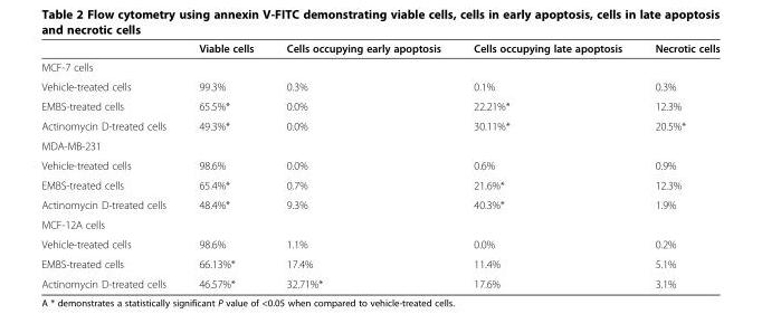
<table><thead><tr><td></td><td>Viable cells</td><td>Cells occupying early apoptosis</td><td>Cells occupying late apoptosis</td><td>Necrotic cells</td></tr></thead><tbody><tr><td colspan="5">MCF-7 cells</td></tr><tr><td>Vehicle-treated cells</td><td>99.3%</td><td>0.3%</td><td>0.1%</td><td>0.3%</td></tr><tr><td>EMBS-treated cells</td><td>65.5%*</td><td>0.0%</td><td>22.21%*</td><td>12.3%</td></tr><tr><td>Actinomycin D-treated cells</td><td>49.3%*</td><td>0.0%</td><td>30.11%*</td><td>20.5%*</td></tr><tr><td colspan="5">MDA-MB-231</td></tr><tr><td>Vehicle-treated cells</td><td>98.6%</td><td>0.0%</td><td>0.6%</td><td>0.9%</td></tr><tr><td>EMBS-treated cells</td><td>65.4%*</td><td>0.7%</td><td>21.6%*</td><td>12.3%</td></tr><tr><td>Actinomycin D-treated cells</td><td>48.4%*</td><td>9.3%</td><td>40.3%*</td><td>1.9%</td></tr><tr><td colspan="5">MCF-12A cells</td></tr><tr><td>Vehicle-treated cells</td><td>98.6%</td><td>1.1%</td><td>0.0%</td><td>0.2%</td></tr><tr><td>EMBS-treated cells</td><td>66.13%*</td><td>17.4%</td><td>11.4%</td><td>5.1%</td></tr><tr><td>Actinomycin D-treated cells</td><td>46.57%*</td><td>32.71%*</td><td>17.6%</td><td>3.1%</td></tr></tbody></table>